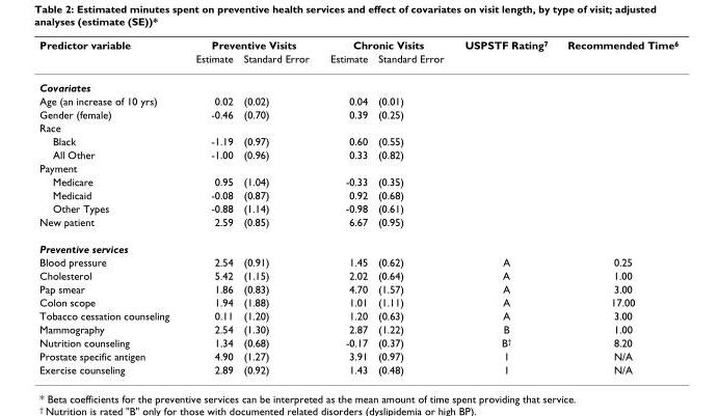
<table><thead><tr><td rowspan="2">Predictor variable</td><td colspan="2">Preventive Visits</td><td colspan="2">Chronic Visits</td><td rowspan="2">USPSTF Rating<sup>7</sup></td><td rowspan="2">Recommended Time<sup>6</sup></td></tr><tr><td>Estimate</td><td>Standard Error</td><td>Estimate</td><td>Standard Error</td></tr></thead><tbody><tr><td colspan="7">Covariates</td></tr><tr><td>Age (an increase of 10 yrs)</td><td>0.02</td><td>(0.02)</td><td>0.04</td><td>(0.01)</td><td></td><td></td></tr><tr><td>Gender (female)</td><td>-0.46</td><td>(0.70)</td><td>0.39</td><td>(0.25)</td><td></td><td></td></tr><tr><td colspan="7">Race</td></tr><tr><td>Black</td><td>-1.19</td><td>(0.97)</td><td>0.60</td><td>(0.55)</td><td></td><td></td></tr><tr><td>All Other</td><td>-1.00</td><td>(0.96)</td><td>0.33</td><td>(0.82)</td><td></td><td></td></tr><tr><td colspan="7">Payment</td></tr><tr><td>Medicare</td><td>0.95</td><td>(1.04)</td><td>-0.33</td><td>(0.35)</td><td></td><td></td></tr><tr><td>Medicaid</td><td>-0.08</td><td>(0.87)</td><td>0.92</td><td>(0.68)</td><td></td><td></td></tr><tr><td>Other Types</td><td>-0.88</td><td>(1.14)</td><td>-0.98</td><td>(0.61)</td><td></td><td></td></tr><tr><td>New patient</td><td>2.59</td><td>(0.85)</td><td>6.67</td><td>(0.95)</td><td></td><td></td></tr><tr><td colspan="7">Preventive services</td></tr><tr><td>Blood pressure</td><td>2.54</td><td>(0.91)</td><td>1.45</td><td>(0.62)</td><td>A</td><td>0.25</td></tr><tr><td>Cholesterol</td><td>5.42</td><td>(1.15)</td><td>2.02</td><td>(0.64)</td><td>A</td><td>1.00</td></tr><tr><td>Pap smear</td><td>1.86</td><td>(0.83)</td><td>4.70</td><td>(1.57)</td><td>A</td><td>3.00</td></tr><tr><td>Colon scope</td><td>1.94</td><td>(1.88)</td><td>1.01</td><td>(1.11)</td><td>A</td><td>17.00</td></tr><tr><td>Tobacco cessation counseling</td><td>0.11</td><td>(1.20)</td><td>1.20</td><td>(0.63)</td><td>A</td><td>3.00</td></tr><tr><td>Mammography</td><td>2.54</td><td>(1.30)</td><td>2.87</td><td>(1.22)</td><td>B</td><td>1.00</td></tr><tr><td>Nutrition counseling</td><td>1.34</td><td>(0.68)</td><td>-0.17</td><td>(0.37)</td><td>B<sup>†</sup></td><td>8.20</td></tr><tr><td>Prostate specific antigen</td><td>4.90</td><td>(1.27)</td><td>3.91</td><td>(0.97)</td><td>I</td><td>N/A</td></tr><tr><td>Exercise counseling</td><td>2.89</td><td>(0.92)</td><td>1.43</td><td>(0.48)</td><td>I</td><td>N/A</td></tr></tbody></table>